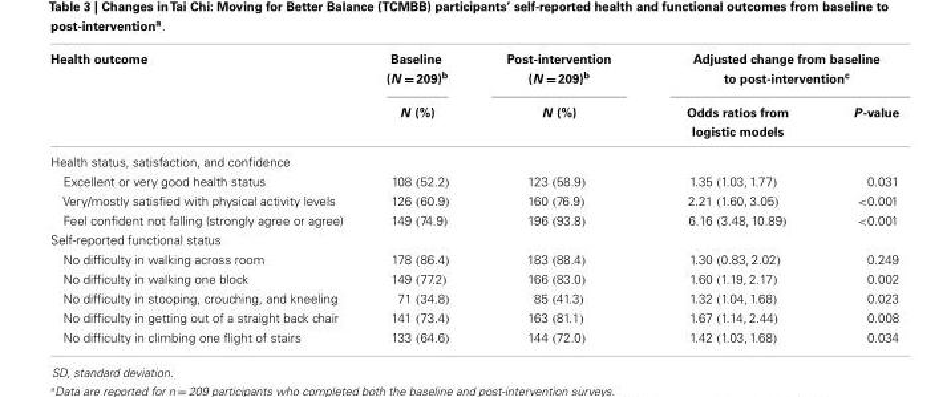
<table><thead><tr><td rowspan="2">Health outcome</td><td rowspan="2">Baseline (N = 209)<sup>b</sup> N (%)</td><td rowspan="2">Post-intervention (N = 209)<sup>b</sup> N (%)</td><td colspan="2">Adjusted change from baseline to post-intervention<sup>c</sup></td></tr><tr><td>Odds ratios from logistic models</td><td>P-value</td></tr></thead><tbody><tr><td colspan="5">Health status, satisfaction, and confidence</td></tr><tr><td>Excellent or very good health status</td><td>108 (52.2)</td><td>123 (58.9)</td><td>1.35 (1.03, 1.77)</td><td>0.031</td></tr><tr><td>Very/mostly satisfied with physical activity levels</td><td>126 (60.9)</td><td>160 (76.9)</td><td>2.21 (1.60, 3.05)</td><td>&lt;0.001</td></tr><tr><td>Feel confident not falling (strongly agree or agree)</td><td>149 (74.9)</td><td>196 (93.8)</td><td>6.16 (3.48, 10.89)</td><td>&lt;0.001</td></tr><tr><td colspan="5">Self-reported functional status</td></tr><tr><td>No difficulty in walking across room</td><td>178 (86.4)</td><td>183 (88.4)</td><td>1.30 (0.83, 2.02)</td><td>0.249</td></tr><tr><td>No difficulty in walking one block</td><td>149 (77.2)</td><td>166 (83.0)</td><td>1.60 (1.19, 2.17)</td><td>0.002</td></tr><tr><td>No difficulty in stooping, crouching, and kneeling</td><td>71 (34.8)</td><td>85 (41.3)</td><td>1.32 (1.04, 1.68)</td><td>0.023</td></tr><tr><td>No difficulty in getting out of a straight back chair</td><td>141 (73.4)</td><td>163 (81.1)</td><td>1.67 (1.14, 2.44)</td><td>0.008</td></tr><tr><td>No difficulty in climbing one flight of stairs</td><td>133 (64.6)</td><td>144 (72.0)</td><td>1.42 (1.03, 1.68)</td><td>0.034</td></tr></tbody></table>